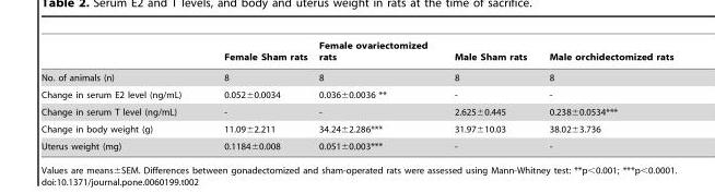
<table><thead><tr><td></td><td>Female Sham rats</td><td>Female ovariectomized rats</td><td>Male Sham rats</td><td>Male orchidectomized rats</td></tr></thead><tbody><tr><td>No. of animals (n)</td><td>8</td><td>8</td><td>8</td><td>8</td></tr><tr><td>Change in serum E2 level (ng/mL)</td><td>0.052±0.0034</td><td>0.036±0.0036 **</td><td>-</td><td>-</td></tr><tr><td>Change in serum T level (ng/mL)</td><td>-</td><td>-</td><td>2.625±0.445</td><td>0.238±0.0534***</td></tr><tr><td>Change in body weight (g)</td><td>11.09±2.211</td><td>34.24±2.286***</td><td>31.97±10.03</td><td>38.02±3.736</td></tr><tr><td>Uterus weight (mg)</td><td>0.1184±0.008</td><td>0.051±0.003***</td><td>-</td><td>-</td></tr></tbody></table>